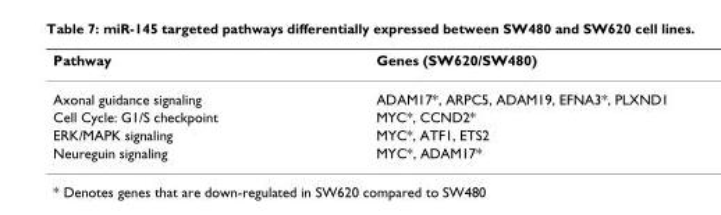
<table><thead><tr><td>Pathway</td><td>Genes (SW620/SW480)</td></tr></thead><tbody><tr><td>Axonal guidance signaling</td><td>ADAM17*, ARPC5, ADAM19, EFNA3*, PLXND1</td></tr><tr><td>Cell Cycle: G1/S checkpoint</td><td>MYC*, CCND2*</td></tr><tr><td>ERK/MAPK signaling</td><td>MYC*, ATF1, ETS2</td></tr><tr><td>Neureguin signaling</td><td>MYC*, ADAM17*</td></tr></tbody></table>